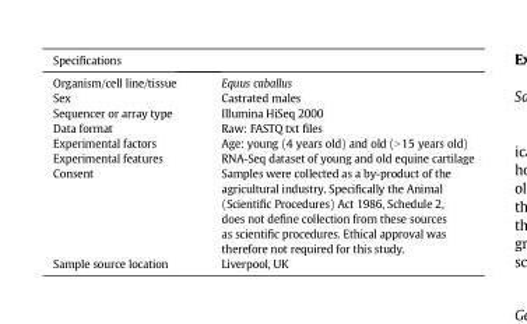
<table><thead><tr><td>Specifications</td><td></td></tr></thead><tbody><tr><td>Organism/cell line/tissue</td><td>Equus caballus</td></tr><tr><td>Sex</td><td>Castrated males</td></tr><tr><td>Sequencer or array type</td><td>Illumina HiSeq 2000</td></tr><tr><td>Data format</td><td>Raw: FASTQ txt files</td></tr><tr><td>Experimental factors</td><td>Age: young (4 years old) and old (&gt;15 years old)</td></tr><tr><td>Experimental features</td><td>RNA-Seq dataset of young and old equine cartilage</td></tr><tr><td>Consent</td><td>Samples were collected as a by-product of the agricultural industry. Specifically the Animal (Scientific Procedures) Act 1986, Schedule 2, does not define collection from these sources as scientific procedures. Ethical approval was therefore not required for this study.</td></tr><tr><td>Sample source location</td><td>Liverpool, UK</td></tr></tbody></table>